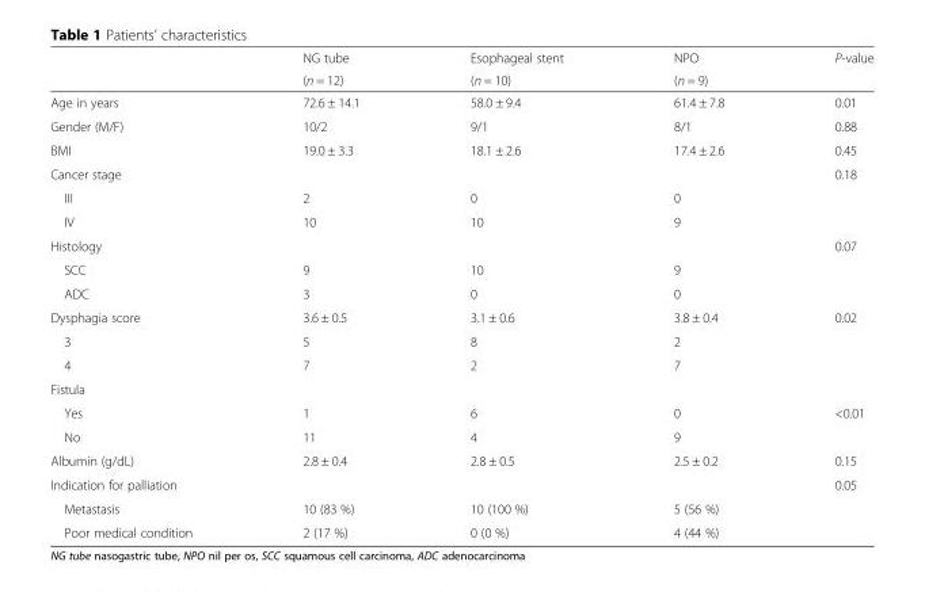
<table><thead><tr><td rowspan="2"></td><td rowspan="2">NG tube (n = 12)</td><td rowspan="2">Esophageal stent (n = 10)</td><td rowspan="2">NPO (n = 9)</td><td rowspan="2">P-value</td></tr><tr></tr></thead><tbody><tr><td>Age in years</td><td>72.6 ± 14.1</td><td>58.0 ± 9.4</td><td>61.4 ± 7.8</td><td>0.01</td></tr><tr><td>Gender (M/F)</td><td>10/2</td><td>9/1</td><td>8/1</td><td>0.88</td></tr><tr><td>BMI</td><td>19.0 ± 3.3</td><td>18.1 ± 2.6</td><td>17.4 ± 2.6</td><td>0.45</td></tr><tr><td>Cancer stage</td><td></td><td></td><td></td><td>0.18</td></tr><tr><td>III</td><td>2</td><td>0</td><td>0</td><td></td></tr><tr><td>IV</td><td>10</td><td>10</td><td>9</td><td></td></tr><tr><td>Histology</td><td></td><td></td><td></td><td>0.07</td></tr><tr><td>SCC</td><td>9</td><td>10</td><td>9</td><td></td></tr><tr><td>ADC</td><td>3</td><td>0</td><td>0</td><td></td></tr><tr><td>Dysphagia score</td><td>3.6 ± 0.5</td><td>3.1 ± 0.6</td><td>3.8 ± 0.4</td><td>0.02</td></tr><tr><td>3</td><td>5</td><td>8</td><td>2</td><td></td></tr><tr><td>4</td><td>7</td><td>2</td><td>7</td><td></td></tr><tr><td colspan="5">Fistula</td></tr><tr><td>Yes</td><td>1</td><td>6</td><td>0</td><td>&lt;0.01</td></tr><tr><td>No</td><td>11</td><td>4</td><td>9</td><td></td></tr><tr><td>Albumin (g/dL)</td><td>2.8 ± 0.4</td><td>2.8 ± 0.5</td><td>2.5 ± 0.2</td><td>0.15</td></tr><tr><td>Indication for palliation</td><td></td><td></td><td></td><td>0.05</td></tr><tr><td>Metastasis</td><td>10 (83 %)</td><td>10 (100 %)</td><td>5 (56 %)</td><td></td></tr><tr><td>Poor medical condition</td><td>2 (17 %)</td><td>0 (0 %)</td><td>4 (44 %)</td><td></td></tr></tbody></table>